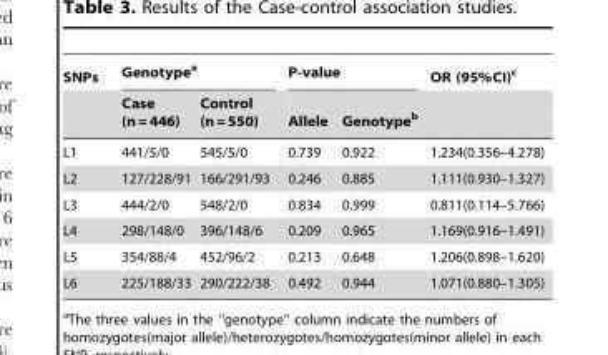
<table><thead><tr><td rowspan="2">SNPs</td><td colspan="2">Genotype<sup>a</sup></td><td colspan="2">P-value</td><td rowspan="2">OR (95%CI)<sup>c</sup></td></tr><tr><td>Case (n = 446)</td><td>Control (n = 550)</td><td>Allele</td><td>Genotype<sup>b</sup></td></tr></thead><tbody><tr><td>L1</td><td>441/5/0</td><td>545/5/0</td><td>0.739</td><td>0.922</td><td>1.234(0.356–4.278)</td></tr><tr><td>L2</td><td>127/228/91</td><td>166/291/93</td><td>0.246</td><td>0.885</td><td>1.111(0.930–1.327)</td></tr><tr><td>L3</td><td>444/2/0</td><td>548/2/0</td><td>0.834</td><td>0.999</td><td>0.811(0.114–5.766)</td></tr><tr><td>L4</td><td>298/148/0</td><td>396/148/6</td><td>0.209</td><td>0.965</td><td>1.169(0.916–1.491)</td></tr><tr><td>L5</td><td>354/88/4</td><td>452/96/2</td><td>0.213</td><td>0.648</td><td>1.206(0.898–1.620)</td></tr><tr><td>L6</td><td>225/188/33</td><td>290/222/38</td><td>0.492</td><td>0.944</td><td>1.071(0.880–1.305)</td></tr></tbody></table>